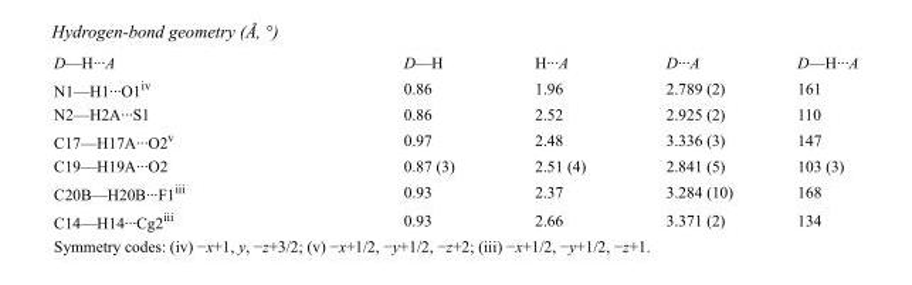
<table><tbody><tr><td>D—H···A</td><td>D—H</td><td>H···A</td><td>D···A</td><td>D—H···A</td></tr><tr><td>N1—H1···O1<sup>iv</sup></td><td>0.86</td><td>1.96</td><td>2.789 (2)</td><td>161</td></tr><tr><td>N2—H2A···S1</td><td>0.86</td><td>2.52</td><td>2.925 (2)</td><td>110</td></tr><tr><td>C17—H17A···O2<sup>v</sup></td><td>0.97</td><td>2.48</td><td>3.336 (3)</td><td>147</td></tr><tr><td>C19—H19A···O2</td><td>0.87 (3)</td><td>2.51 (4)</td><td>2.841 (5)</td><td>103 (3)</td></tr><tr><td>C20B—H20B···F1<sup>iii</sup></td><td>0.93</td><td>2.37</td><td>3.284 (10)</td><td>168</td></tr><tr><td>C14—H14···Cg2<sup>iii</sup></td><td>0.93</td><td>2.66</td><td>3.371 (2)</td><td>134</td></tr></tbody></table>